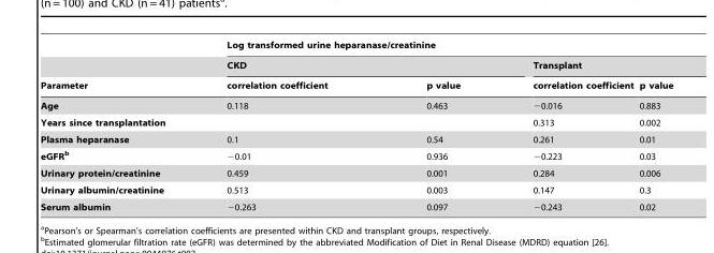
<table><thead><tr><td rowspan="3">Parameter</td><td colspan="4">Log transformed urine heparanase/creatinine</td></tr><tr><td colspan="2">CKD</td><td colspan="2">Transplant</td></tr><tr><td>correlation coefficient</td><td>p value</td><td>correlation coefficient</td><td>p value</td></tr></thead><tbody><tr><td>Age</td><td>0.118</td><td>0.463</td><td>−0.016</td><td>0.883</td></tr><tr><td>Years since transplantation</td><td></td><td></td><td>0.313</td><td>0.002</td></tr><tr><td>Plasma heparanase</td><td>0.1</td><td>0.54</td><td>0.261</td><td>0.01</td></tr><tr><td>eGFRb</td><td>−0.01</td><td>0.936</td><td>−0.223</td><td>0.03</td></tr><tr><td>Urinary protein/creatinine</td><td>0.459</td><td>0.001</td><td>0.284</td><td>0.006</td></tr><tr><td>Urinary albumin/creatinine</td><td>0.513</td><td>0.003</td><td>0.147</td><td>0.3</td></tr><tr><td>Serum albumin</td><td>−0.263</td><td>0.097</td><td>−0.243</td><td>0.02</td></tr></tbody></table>